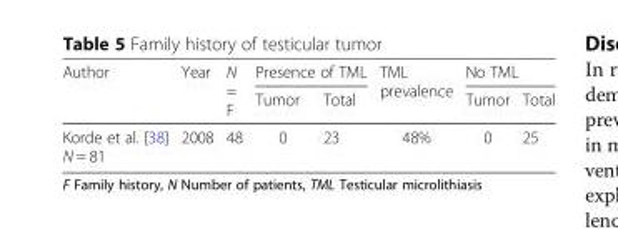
<table><thead><tr><td rowspan="2">Author</td><td rowspan="2">Year</td><td rowspan="2">N = F</td><td colspan="2">Presence of TML</td><td rowspan="2">TML prevalence</td><td colspan="2">No TML</td></tr><tr><td>Tumor</td><td>Total</td><td>Tumor</td><td>Total</td></tr></thead><tbody><tr><td>Korde et al. [38] N = 81</td><td>2008</td><td>48</td><td>0</td><td>23</td><td>48%</td><td>0</td><td>25</td></tr></tbody></table>